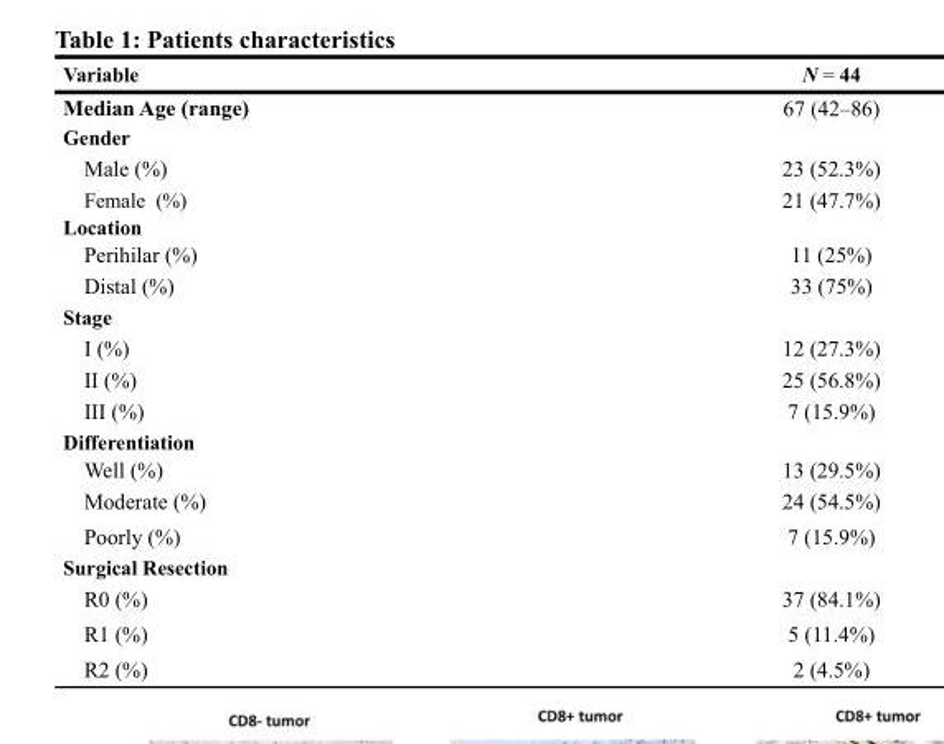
<table><thead><tr><td>Variable</td><td>N = 44</td></tr></thead><tbody><tr><td>Median Age (range)</td><td>67 (42–86)</td></tr><tr><td colspan="2">Gender</td></tr><tr><td>Male (%)</td><td>23 (52.3%)</td></tr><tr><td>Female (%)</td><td>21 (47.7%)</td></tr><tr><td colspan="2">Location</td></tr><tr><td>Perihilar (%)</td><td>11 (25%)</td></tr><tr><td>Distal (%)</td><td>33 (75%)</td></tr><tr><td colspan="2">Stage</td></tr><tr><td>I (%)</td><td>12 (27.3%)</td></tr><tr><td>II (%)</td><td>25 (56.8%)</td></tr><tr><td>III (%)</td><td>7 (15.9%)</td></tr><tr><td colspan="2">Differentiation</td></tr><tr><td>Well (%)</td><td>13 (29.5%)</td></tr><tr><td>Moderate (%)</td><td>24 (54.5%)</td></tr><tr><td>Poorly (%)</td><td>7 (15.9%)</td></tr><tr><td colspan="2">Surgical Resection</td></tr><tr><td>R0 (%)</td><td>37 (84.1%)</td></tr><tr><td>R1 (%)</td><td>5 (11.4%)</td></tr><tr><td>R2 (%)</td><td>2 (4.5%)</td></tr></tbody></table>